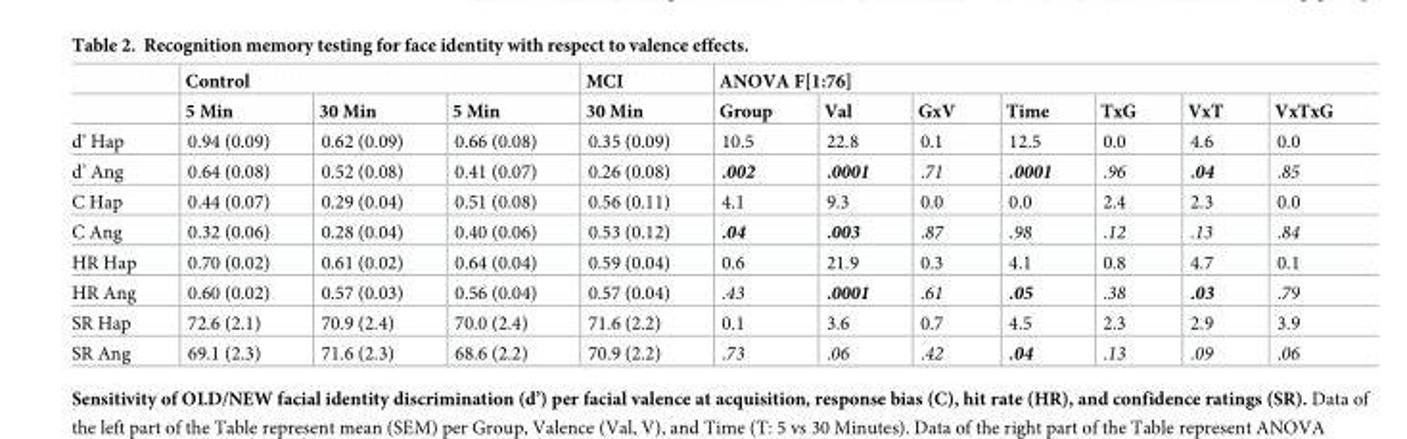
<table><thead><tr><td rowspan="2"></td><td colspan="3">Control</td><td rowspan="2">MCI 30 Min</td><td colspan="7">ANOVA F[1:76]</td></tr><tr><td>5 Min</td><td>30 Min</td><td>5 Min</td><td>Group</td><td>Val</td><td>GxV</td><td>Time</td><td>TxG</td><td>VxT</td><td>VxTxG</td></tr></thead><tbody><tr><td>d’ Hap</td><td>0.94 (0.09)</td><td>0.62 (0.09)</td><td>0.66 (0.08)</td><td>0.35 (0.09)</td><td>10.5</td><td>22.8</td><td>0.1</td><td>12.5</td><td>0.0</td><td>4.6</td><td>0.0</td></tr><tr><td>d’ Ang</td><td>0.64 (0.08)</td><td>0.52 (0.08)</td><td>0.41 (0.07)</td><td>0.26 (0.08)</td><td>.002</td><td>.0001</td><td>.71</td><td>.0001</td><td>.96</td><td>.04</td><td>.85</td></tr><tr><td>C Hap</td><td>0.44 (0.07)</td><td>0.29 (0.04)</td><td>0.51 (0.08)</td><td>0.56 (0.11)</td><td>4.1</td><td>9.3</td><td>0.0</td><td>0.0</td><td>2.4</td><td>2.3</td><td>0.0</td></tr><tr><td>C Ang</td><td>0.32 (0.06)</td><td>0.28 (0.04)</td><td>0.40 (0.06)</td><td>0.53 (0.12)</td><td>.04</td><td>.003</td><td>.87</td><td>.98</td><td>.12</td><td>.13</td><td>.84</td></tr><tr><td>HR Hap</td><td>0.70 (0.02)</td><td>0.61 (0.02)</td><td>0.64 (0.04)</td><td>0.59 (0.04)</td><td>0.6</td><td>21.9</td><td>0.3</td><td>4.1</td><td>0.8</td><td>4.7</td><td>0.1</td></tr><tr><td>HR Ang</td><td>0.60 (0.02)</td><td>0.57 (0.03)</td><td>0.56 (0.04)</td><td>0.57 (0.04)</td><td>.43</td><td>.0001</td><td>.61</td><td>.05</td><td>.38</td><td>.03</td><td>.79</td></tr><tr><td>SR Hap</td><td>72.6 (2.1)</td><td>70.9 (2.4)</td><td>70.0 (2.4)</td><td>71.6 (2.2)</td><td>0.1</td><td>3.6</td><td>0.7</td><td>4.5</td><td>2.3</td><td>2.9</td><td>3.9</td></tr><tr><td>SR Ang</td><td>69.1 (2.3)</td><td>71.6 (2.3)</td><td>68.6 (2.2)</td><td>70.9 (2.2)</td><td>.73</td><td>.06</td><td>.42</td><td>.04</td><td>.13</td><td>.09</td><td>.06</td></tr></tbody></table>